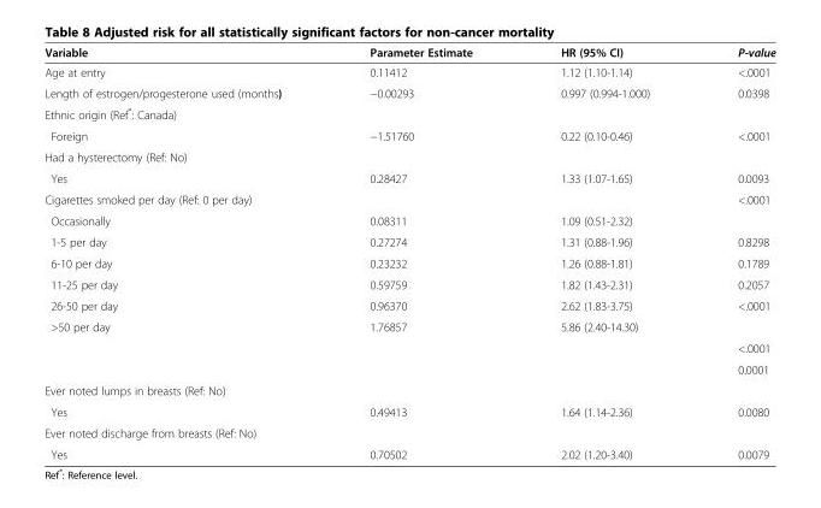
<table><thead><tr><td>Variable</td><td>Parameter Estimate</td><td>HR (95% CI)</td><td>P-value</td></tr></thead><tbody><tr><td>Age at entry</td><td>0.11412</td><td>1.12 (1.10-1.14)</td><td>&lt;.0001</td></tr><tr><td>Length of estrogen/progesterone used (months)</td><td>−0.00293</td><td>0.997 (0.994-1.000)</td><td>0.0398</td></tr><tr><td colspan="4">Ethnic origin (Ref*: Canada)</td></tr><tr><td>Foreign</td><td>−1.51760</td><td>0.22 (0.10-0.46)</td><td>&lt;.0001</td></tr><tr><td colspan="4">Had a hysterectomy (Ref: No)</td></tr><tr><td>Yes</td><td>0.28427</td><td>1.33 (1.07-1.65)</td><td>0.0093</td></tr><tr><td>Cigarettes smoked per day (Ref: 0 per day)</td><td></td><td></td><td>&lt;.0001</td></tr><tr><td>Occasionally</td><td>0.08311</td><td>1.09 (0.51-2.32)</td><td></td></tr><tr><td>1-5 per day</td><td>0.27274</td><td>1.31 (0.88-1.96)</td><td>0.8298</td></tr><tr><td>6-10 per day</td><td>0.23232</td><td>1.26 (0.88-1.81)</td><td>0.1789</td></tr><tr><td>11-25 per day</td><td>0.59759</td><td>1.82 (1.43-2.31)</td><td>0.2057</td></tr><tr><td>26-50 per day</td><td>0.96370</td><td>2.62 (1.83-3.75)</td><td>&lt;.0001</td></tr><tr><td rowspan="3">&gt;50 per day</td><td>1.76857</td><td>5.86 (2.40-14.30)</td><td></td></tr><tr><td rowspan="2"></td><td rowspan="2"></td><td>&lt;.0001</td></tr><tr><td>0.0001</td></tr><tr><td colspan="4">Ever noted lumps in breasts (Ref: No)</td></tr><tr><td>Yes</td><td>0.49413</td><td>1.64 (1.14-2.36)</td><td>0.0080</td></tr><tr><td colspan="4">Ever noted discharge from breasts (Ref: No)</td></tr><tr><td>Yes</td><td>0.70502</td><td>2.02 (1.20-3.40)</td><td>0.0079</td></tr></tbody></table>